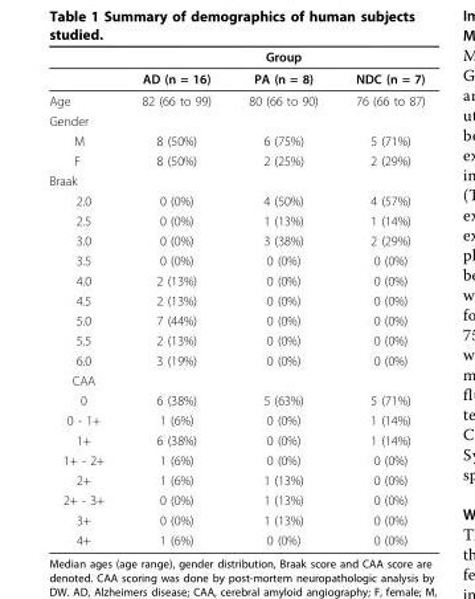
<table><thead><tr><td rowspan="2"></td><td colspan="3">Group</td></tr><tr><td>AD (n = 16)</td><td>PA (n = 8)</td><td>NDC (n = 7)</td></tr></thead><tbody><tr><td>Age</td><td>82 (66 to 99)</td><td>80 (66 to 90)</td><td>76 (66 to 87)</td></tr><tr><td colspan="4">Gender</td></tr><tr><td>M</td><td>8 (50%)</td><td>6 (75%)</td><td>5 (71%)</td></tr><tr><td>F</td><td>8 (50%)</td><td>2 (25%)</td><td>2 (29%)</td></tr><tr><td colspan="4">Braak</td></tr><tr><td>2.0</td><td>0 (0%)</td><td>4 (50%)</td><td>4 (57%)</td></tr><tr><td>2.5</td><td>0 (0%)</td><td>1 (13%)</td><td>1 (14%)</td></tr><tr><td>3.0</td><td>0 (0%)</td><td>3 (38%)</td><td>2 (29%)</td></tr><tr><td>3.5</td><td>0 (0%)</td><td>0 (0%)</td><td>0 (0%)</td></tr><tr><td>4.0</td><td>2 (13%)</td><td>0 (0%)</td><td>0 (0%)</td></tr><tr><td>4.5</td><td>2 (13%)</td><td>0 (0%)</td><td>0 (0%)</td></tr><tr><td>5.0</td><td>7 (44%)</td><td>0 (0%)</td><td>0 (0%)</td></tr><tr><td>5.5</td><td>2 (13%)</td><td>0 (0%)</td><td>0 (0%)</td></tr><tr><td>6.0</td><td>3 (19%)</td><td>0 (0%)</td><td>0 (0%)</td></tr><tr><td colspan="4">CAA</td></tr><tr><td>0</td><td>6 (38%)</td><td>5 (63%)</td><td>5 (71%)</td></tr><tr><td>0 - 1+</td><td>1 (6%)</td><td>0 (0%)</td><td>1 (14%)</td></tr><tr><td>1+</td><td>6 (38%)</td><td>0 (0%)</td><td>1 (14%)</td></tr><tr><td>1+ - 2+</td><td>1 (6%)</td><td>0 (0%)</td><td>0 (0%)</td></tr><tr><td>2+</td><td>1 (6%)</td><td>1 (13%)</td><td>0 (0%)</td></tr><tr><td>2+ - 3+</td><td>0 (0%)</td><td>1 (13%)</td><td>0 (0%)</td></tr><tr><td>3+</td><td>0 (0%)</td><td>1 (13%)</td><td>0 (0%)</td></tr><tr><td>4+</td><td>1 (6%)</td><td>0 (0%)</td><td>0 (0%)</td></tr></tbody></table>